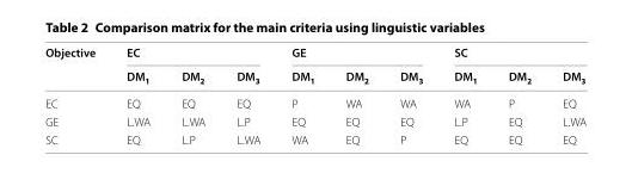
<table><thead><tr><td rowspan="2">Objective</td><td colspan="3">EC</td><td colspan="3">GE</td><td colspan="3">SC</td></tr><tr><td>DM<sub>1</sub></td><td>DM<sub>2</sub></td><td>DM<sub>3</sub></td><td>DM<sub>1</sub></td><td>DM<sub>2</sub></td><td>DM<sub>3</sub></td><td>DM<sub>1</sub></td><td>DM<sub>2</sub></td><td>DM<sub>3</sub></td></tr></thead><tbody><tr><td>EC</td><td>EQ</td><td>EQ</td><td>EQ</td><td>P</td><td>WA</td><td>WA</td><td>WA</td><td>P</td><td>EQ</td></tr><tr><td>GE</td><td>L.WA</td><td>L.WA</td><td>L.P</td><td>EQ</td><td>EQ</td><td>EQ</td><td>L.P</td><td>EQ</td><td>L.WA</td></tr><tr><td>SC</td><td>EQ</td><td>L.P</td><td>L.WA</td><td>WA</td><td>EQ</td><td>P</td><td>EQ</td><td>EQ</td><td>EQ</td></tr></tbody></table>